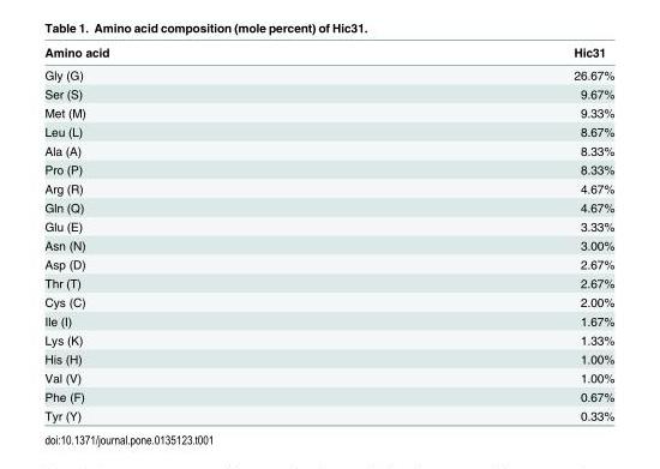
<table><thead><tr><td>Amino acid</td><td>Hic31</td></tr></thead><tbody><tr><td>Gly (G)</td><td>26.67%</td></tr><tr><td>Ser (S)</td><td>9.67%</td></tr><tr><td>Met (M)</td><td>9.33%</td></tr><tr><td>Leu (L)</td><td>8.67%</td></tr><tr><td>Ala (A)</td><td>8.33%</td></tr><tr><td>Pro (P)</td><td>8.33%</td></tr><tr><td>Arg (R)</td><td>4.67%</td></tr><tr><td>Gln (Q)</td><td>4.67%</td></tr><tr><td>Glu (E)</td><td>3.33%</td></tr><tr><td>Asn (N)</td><td>3.00%</td></tr><tr><td>Asp (D)</td><td>2.67%</td></tr><tr><td>Thr (T)</td><td>2.67%</td></tr><tr><td>Cys (C)</td><td>2.00%</td></tr><tr><td>Ile (I)</td><td>1.67%</td></tr><tr><td>Lys (K)</td><td>1.33%</td></tr><tr><td>His (H)</td><td>1.00%</td></tr><tr><td>Val (V)</td><td>1.00%</td></tr><tr><td>Phe (F)</td><td>0.67%</td></tr><tr><td>Tyr (Y)</td><td>0.33%</td></tr></tbody></table>